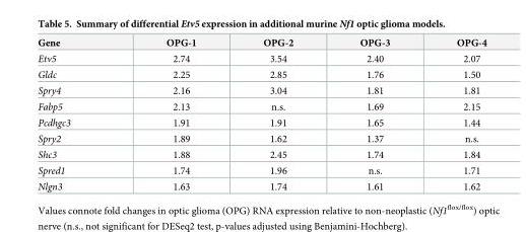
<table><thead><tr><td>Gene</td><td>OPG-1</td><td>OPG-2</td><td>OPG-3</td><td>OPG-4</td></tr></thead><tbody><tr><td>Etv5</td><td>2.74</td><td>3.54</td><td>2.40</td><td>2.07</td></tr><tr><td>Gldc</td><td>2.25</td><td>2.85</td><td>1.76</td><td>1.50</td></tr><tr><td>Spry4</td><td>2.16</td><td>3.04</td><td>1.81</td><td>1.81</td></tr><tr><td>Fabp5</td><td>2.13</td><td>n.s.</td><td>1.69</td><td>2.15</td></tr><tr><td>Pcdhgc3</td><td>1.91</td><td>1.91</td><td>1.65</td><td>1.44</td></tr><tr><td>Spry2</td><td>1.89</td><td>1.62</td><td>1.37</td><td>n.s.</td></tr><tr><td>Shc3</td><td>1.88</td><td>2.45</td><td>1.74</td><td>1.84</td></tr><tr><td>Spred1</td><td>1.74</td><td>1.96</td><td>n.s.</td><td>1.71</td></tr><tr><td>Nlgn3</td><td>1.63</td><td>1.74</td><td>1.61</td><td>1.62</td></tr></tbody></table>